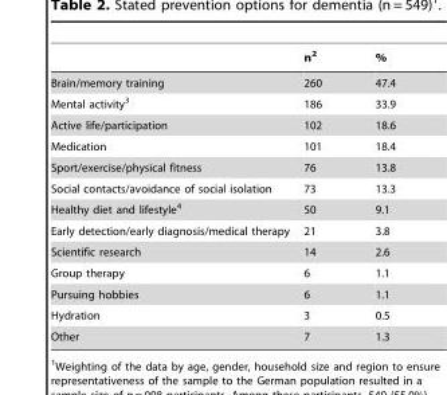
<table><thead><tr><td></td><td>n<sup>2</sup></td><td>%</td></tr></thead><tbody><tr><td>Brain/memory training</td><td>260</td><td>47.4</td></tr><tr><td>Mental activity<sup>3</sup></td><td>186</td><td>33.9</td></tr><tr><td>Active life/participation</td><td>102</td><td>18.6</td></tr><tr><td>Medication</td><td>101</td><td>18.4</td></tr><tr><td>Sport/exercise/physical fitness</td><td>76</td><td>13.8</td></tr><tr><td>Social contacts/avoidance of social isolation</td><td>73</td><td>13.3</td></tr><tr><td>Healthy diet and lifestyle<sup>4</sup></td><td>50</td><td>9.1</td></tr><tr><td>Early detection/early diagnosis/medical therapy</td><td>21</td><td>3.8</td></tr><tr><td>Scientific research</td><td>14</td><td>2.6</td></tr><tr><td>Group therapy</td><td>6</td><td>1.1</td></tr><tr><td>Pursuing hobbies</td><td>6</td><td>1.1</td></tr><tr><td>Hydration</td><td>3</td><td>0.5</td></tr><tr><td>Other</td><td>7</td><td>1.3</td></tr></tbody></table>